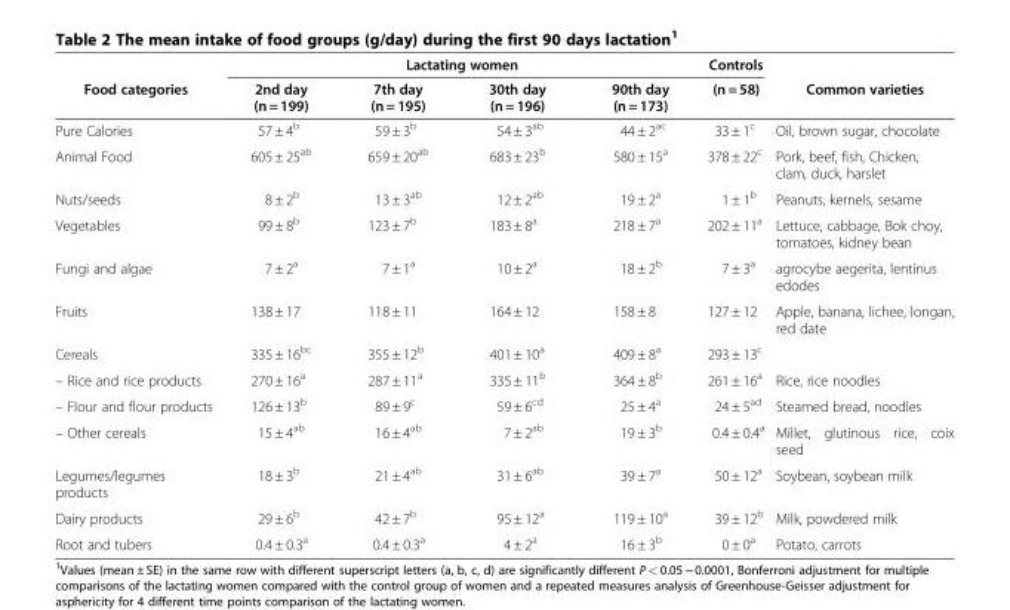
<table><thead><tr><td rowspan="2">Food categories</td><td colspan="4">Lactating women</td><td rowspan="2">Controls (n = 58)</td><td rowspan="2">Common varieties</td></tr><tr><td>2nd day (n = 199)</td><td>7th day (n = 195)</td><td>30th day (n = 196)</td><td>90th day (n = 173)</td></tr></thead><tbody><tr><td>Pure Calories</td><td>57 ± 4<sup>b</sup></td><td>59 ± 3<sup>b</sup></td><td>54 ± 3<sup>ab</sup></td><td>44 ± 2<sup>ac</sup></td><td>33 ± 1<sup>c</sup></td><td>Oil, brown sugar, chocolate</td></tr><tr><td>Animal Food</td><td>605 ± 25<sup>ab</sup></td><td>659 ± 20<sup>ab</sup></td><td>683 ± 23<sup>b</sup></td><td>580 ± 15<sup>a</sup></td><td>378 ± 22<sup>c</sup></td><td>Pork, beef, fish, Chicken, clam, duck, harslet</td></tr><tr><td>Nuts/seeds</td><td>8 ± 2<sup>b</sup></td><td>13 ± 3<sup>ab</sup></td><td>12 ± 2<sup>ab</sup></td><td>19 ± 2<sup>a</sup></td><td>1 ± 1<sup>b</sup></td><td>Peanuts, kernels, sesame</td></tr><tr><td>Vegetables</td><td>99 ± 8<sup>b</sup></td><td>123 ± 7<sup>b</sup></td><td>183 ± 8<sup>a</sup></td><td>218 ± 7<sup>a</sup></td><td>202 ± 11<sup>a</sup></td><td>Lettuce, cabbage, Bok choy, tomatoes, kidney bean</td></tr><tr><td>Fungi and algae</td><td>7 ± 2<sup>a</sup></td><td>7 ± 1<sup>a</sup></td><td>10 ± 2<sup>a</sup></td><td>18 ± 2<sup>b</sup></td><td>7 ± 3<sup>a</sup></td><td>agrocybe aegerita, lentinus edodes</td></tr><tr><td>Fruits</td><td>138 ± 17</td><td>118 ± 11</td><td>164 ± 12</td><td>158 ± 8</td><td>127 ± 12</td><td>Apple, banana, lichee, longan, red date</td></tr><tr><td>Cereals</td><td>335 ± 16<sup>bc</sup></td><td>355 ± 12<sup>b</sup></td><td>401 ± 10<sup>a</sup></td><td>409 ± 8<sup>a</sup></td><td>293 ± 13<sup>c</sup></td><td></td></tr><tr><td>– Rice and rice products</td><td>270 ± 16<sup>a</sup></td><td>287 ± 11<sup>a</sup></td><td>335 ± 11<sup>b</sup></td><td>364 ± 8<sup>b</sup></td><td>261 ± 16<sup>a</sup></td><td>Rice, rice noodles</td></tr><tr><td>– Flour and flour products</td><td>126 ± 13<sup>b</sup></td><td>89 ± 9<sup>c</sup></td><td>59 ± 6<sup>cd</sup></td><td>25 ± 4<sup>a</sup></td><td>24 ± 5<sup>ad</sup></td><td>Steamed bread, noodles</td></tr><tr><td>– Other cereals</td><td>15 ± 4<sup>ab</sup></td><td>16 ± 4<sup>ab</sup></td><td>7 ± 2<sup>ab</sup></td><td>19 ± 3<sup>b</sup></td><td>0.4 ± 0.4<sup>a</sup></td><td>Millet, glutinous rice, coix seed</td></tr><tr><td>Legumes/legumes products</td><td>18 ± 3<sup>b</sup></td><td>21 ± 4<sup>ab</sup></td><td>31 ± 6<sup>ab</sup></td><td>39 ± 7<sup>a</sup></td><td>50 ± 12<sup>a</sup></td><td>Soybean, soybean milk</td></tr><tr><td>Dairy products</td><td>29 ± 6<sup>b</sup></td><td>42 ± 7<sup>b</sup></td><td>95 ± 12<sup>a</sup></td><td>119 ± 10<sup>a</sup></td><td>39 ± 12<sup>b</sup></td><td>Milk, powdered milk</td></tr><tr><td>Root and tubers</td><td>0.4 ± 0.3<sup>a</sup></td><td>0.4 ± 0.3<sup>a</sup></td><td>4 ± 2<sup>a</sup></td><td>16 ± 3<sup>b</sup></td><td>0 ± 0<sup>a</sup></td><td>Potato, carrots</td></tr></tbody></table>